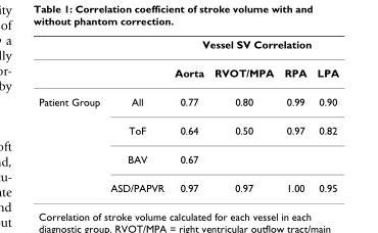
<table><thead><tr><td rowspan="2"></td><td rowspan="2"></td><td colspan="4">Vessel SV Correlation</td></tr><tr><td>Aorta</td><td>RVOT/MPA</td><td>RPA</td><td>LPA</td></tr></thead><tbody><tr><td rowspan="4">Patient Group</td><td>All</td><td>0.77</td><td>0.80</td><td>0.99</td><td>0.90</td></tr><tr><td>ToF</td><td>0.64</td><td>0.50</td><td>0.97</td><td>0.82</td></tr><tr><td>BAV</td><td>0.67</td><td></td><td></td><td></td></tr><tr><td>ASD/PAPVR</td><td>0.97</td><td>0.97</td><td>1.00</td><td>0.95</td></tr></tbody></table>